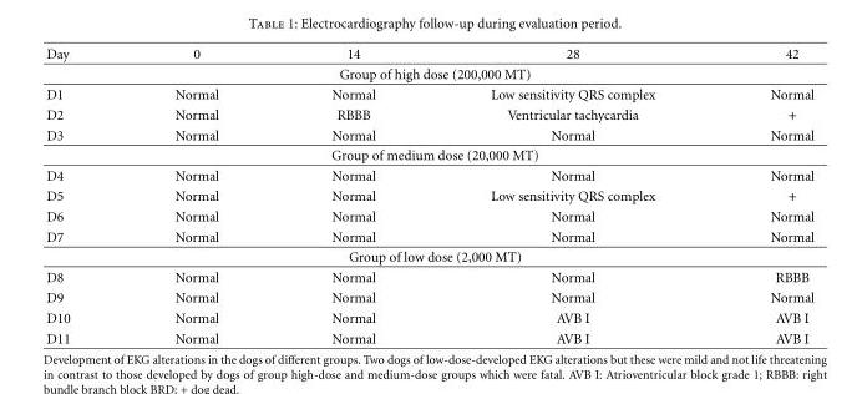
<table><thead><tr><td>Day</td><td>0</td><td>14</td><td>28</td><td>42</td></tr></thead><tbody><tr><td colspan="5">Group of high dose (200,000 MT)</td></tr><tr><td>D1</td><td>Normal</td><td>Normal</td><td>Low sensitivity QRS complex</td><td>Normal</td></tr><tr><td>D2</td><td>Normal</td><td>RBBB</td><td>Ventricular tachycardia</td><td>+</td></tr><tr><td>D3</td><td>Normal</td><td>Normal</td><td>Normal</td><td>Normal</td></tr><tr><td colspan="5">Group of medium dose (20,000 MT)</td></tr><tr><td>D4</td><td>Normal</td><td>Normal</td><td>Normal</td><td>Normal</td></tr><tr><td>D5</td><td>Normal</td><td>Normal</td><td>Low sensitivity QRS complex</td><td>+</td></tr><tr><td>D6</td><td>Normal</td><td>Normal</td><td>Normal</td><td>Normal</td></tr><tr><td>D7</td><td>Normal</td><td>Normal</td><td>Normal</td><td>Normal</td></tr><tr><td colspan="5">Group of low dose (2,000 MT)</td></tr><tr><td>D8</td><td>Normal</td><td>Normal</td><td>Normal</td><td>RBBB</td></tr><tr><td>D9</td><td>Normal</td><td>Normal</td><td>Normal</td><td>Normal</td></tr><tr><td>D10</td><td>Normal</td><td>Normal</td><td>AVB I</td><td>AVB I</td></tr><tr><td>D11</td><td>Normal</td><td>Normal</td><td>AVB I</td><td>AVB I</td></tr></tbody></table>